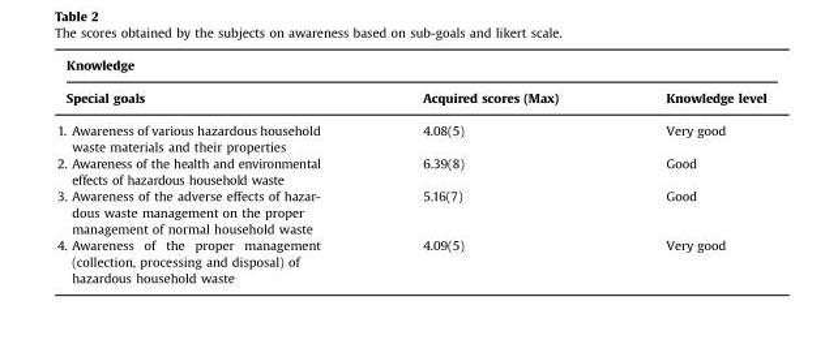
<table><thead><tr><td colspan="3">Knowledge</td></tr><tr><td>Special goals</td><td>Acquired scores (Max)</td><td>Knowledge level</td></tr></thead><tbody><tr><td>1. Awareness of various hazardous household waste materials and their properties</td><td>4.08(5)</td><td>Very good</td></tr><tr><td>2. Awareness of the health and environmental effects of hazardous household waste</td><td>6.39(8)</td><td>Good</td></tr><tr><td>3. Awareness of the adverse effects of hazar- dous waste management on the proper management of normal household waste</td><td>5.16(7)</td><td>Good</td></tr><tr><td>4. Awareness of the proper management (collection, processing and disposal) of hazardous household waste</td><td>4.09(5)</td><td>Very good</td></tr></tbody></table>